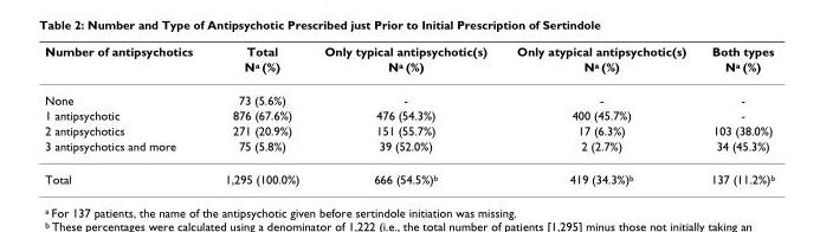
<table><thead><tr><td rowspan="2">Number of antipsychotics</td><td rowspan="2">Total Na (%)</td><td rowspan="2">Only typical antipsychotic(s) N<sup>a</sup> (%)</td><td rowspan="2">Only atypical antipsychotic(s) N<sup>a</sup> (%)</td><td rowspan="2">Both types N<sup>a</sup> (%)</td></tr><tr></tr></thead><tbody><tr><td>None</td><td>73 (5.6%)</td><td>-</td><td>-</td><td>-</td></tr><tr><td>1 antipsychotic</td><td>876 (67.6%)</td><td>476 (54.3%)</td><td>400 (45.7%)</td><td>-</td></tr><tr><td>2 antipsychotics</td><td>271 (20.9%)</td><td>151 (55.7%)</td><td>17 (6.3%)</td><td>103 (38.0%)</td></tr><tr><td>3 antipsychotics and more</td><td>75 (5.8%)</td><td>39 (52.0%)</td><td>2 (2.7%)</td><td>34 (45.3%)</td></tr><tr><td>Total</td><td>1,295 (100.0%)</td><td>666 (54.5%)<sup>b</sup></td><td>419 (34.3%)<sup>b</sup></td><td>137 (11.2%)<sup>b</sup></td></tr></tbody></table>